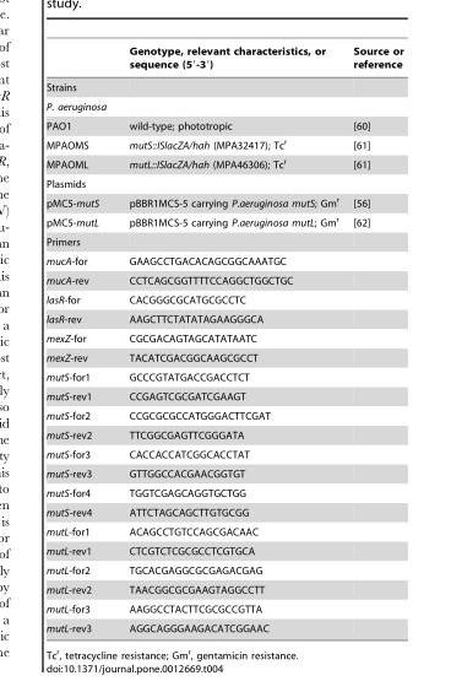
<table><thead><tr><td></td><td>Genotype, relevant characteristics, or sequence (5′-3′)</td><td>Source or reference</td></tr></thead><tbody><tr><td colspan="3">Strains</td></tr><tr><td colspan="3">P. aeruginosa</td></tr><tr><td>PAO1</td><td>wild-type; phototropic</td><td>[60]</td></tr><tr><td>MPAOMS</td><td>mutS::ISlacZA/hah (MPA32417); Tc<sup>r</sup></td><td>[61]</td></tr><tr><td>MPAOML</td><td>mutL::ISlacZA/hah (MPA46306); Tc<sup>r</sup></td><td>[61]</td></tr><tr><td colspan="3">Plasmids</td></tr><tr><td>pMC5-mutS</td><td>pBBR1MCS-5 carrying P.aeruginosa mutS; Gm<sup>r</sup></td><td>[56]</td></tr><tr><td>pMC5-mutL</td><td>pBBR1MCS-5 carrying P.aeruginosa mutL; Gm<sup>r</sup></td><td>[62]</td></tr><tr><td colspan="3">Primers</td></tr><tr><td>mucA-for</td><td>GAAGCCTGACACAGCGGCAAATGC</td><td></td></tr><tr><td>mucA-rev</td><td>CCTCAGCGGTTTTCCAGGCTGGCTGC</td><td></td></tr><tr><td>lasR-for</td><td>CACGGGCGCATGCGCCTC</td><td></td></tr><tr><td>lasR-rev</td><td>AAGCTTCTATATAGAAGGGCA</td><td></td></tr><tr><td>mexZ-for</td><td>CGCGACAGTAGCATATAATC</td><td></td></tr><tr><td>mexZ-rev</td><td>TACATCGACGGCAAGCGCCT</td><td></td></tr><tr><td>mutS-for1</td><td>GCCCGTATGACCGACCTCT</td><td></td></tr><tr><td>mutS-rev1</td><td>CCGAGTCGCGATCGAAGT</td><td></td></tr><tr><td>mutS-for2</td><td>CCGCGCGCCATGGGACTTCGAT</td><td></td></tr><tr><td>mutS-rev2</td><td>TTCGGCGAGTTCGGGATA</td><td></td></tr><tr><td>mutS-for3</td><td>CACCACCATCGGCACCTAT</td><td></td></tr><tr><td>mutS-rev3</td><td>GTTGGCCACGAACGGTGT</td><td></td></tr><tr><td>mutS-for4</td><td>TGGTCGAGCAGGTGCTGG</td><td></td></tr><tr><td>mutS-rev4</td><td>ATTCTAGCAGCTTGTGCGG</td><td></td></tr><tr><td>mutL-for1</td><td>ACAGCCTGTCCAGCGACAAC</td><td></td></tr><tr><td>mutL-rev1</td><td>CTCGTCTCGCGCCTCGTGCA</td><td></td></tr><tr><td>mutL-for2</td><td>TGCACGAGGCGCGAGACGAG</td><td></td></tr><tr><td>mutL-rev2</td><td>TAACGGCGCGAAGTAGGCCTT</td><td></td></tr><tr><td>mutL-for3</td><td>AAGGCCTACTTCGCGCCGTTA</td><td></td></tr><tr><td>mutL-rev3</td><td>AGGCAGGGAAGACATCGGAAC</td><td></td></tr></tbody></table>